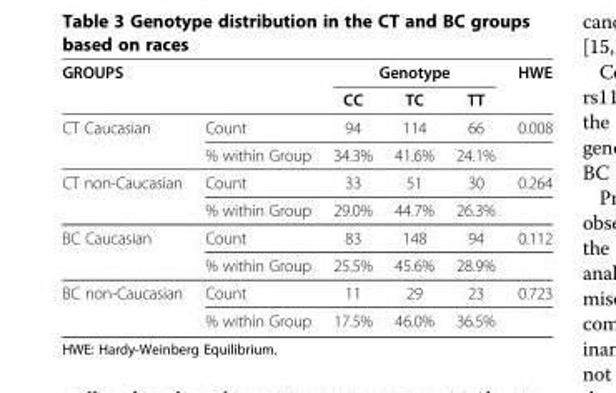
<table><thead><tr><td rowspan="2">GROUPS</td><td rowspan="2"></td><td colspan="3">Genotype</td><td rowspan="2">HWE</td></tr><tr><td>CC</td><td>TC</td><td>TT</td></tr></thead><tbody><tr><td rowspan="2">CT Caucasian</td><td>Count</td><td>94</td><td>114</td><td>66</td><td>0.008</td></tr><tr><td>% within Group</td><td>34.3%</td><td>41.6%</td><td>24.1%</td><td></td></tr><tr><td rowspan="2">CT non-Caucasian</td><td>Count</td><td>33</td><td>51</td><td>30</td><td>0.264</td></tr><tr><td>% within Group</td><td>29.0%</td><td>44.7%</td><td>26.3%</td><td></td></tr><tr><td rowspan="2">BC Caucasian</td><td>Count</td><td>83</td><td>148</td><td>94</td><td>0.112</td></tr><tr><td>% within Group</td><td>25.5%</td><td>45.6%</td><td>28.9%</td><td></td></tr><tr><td rowspan="2">BC non-Caucasian</td><td>Count</td><td>11</td><td>29</td><td>23</td><td>0.723</td></tr><tr><td>% within Group</td><td>17.5%</td><td>46.0%</td><td>36.5%</td><td></td></tr></tbody></table>